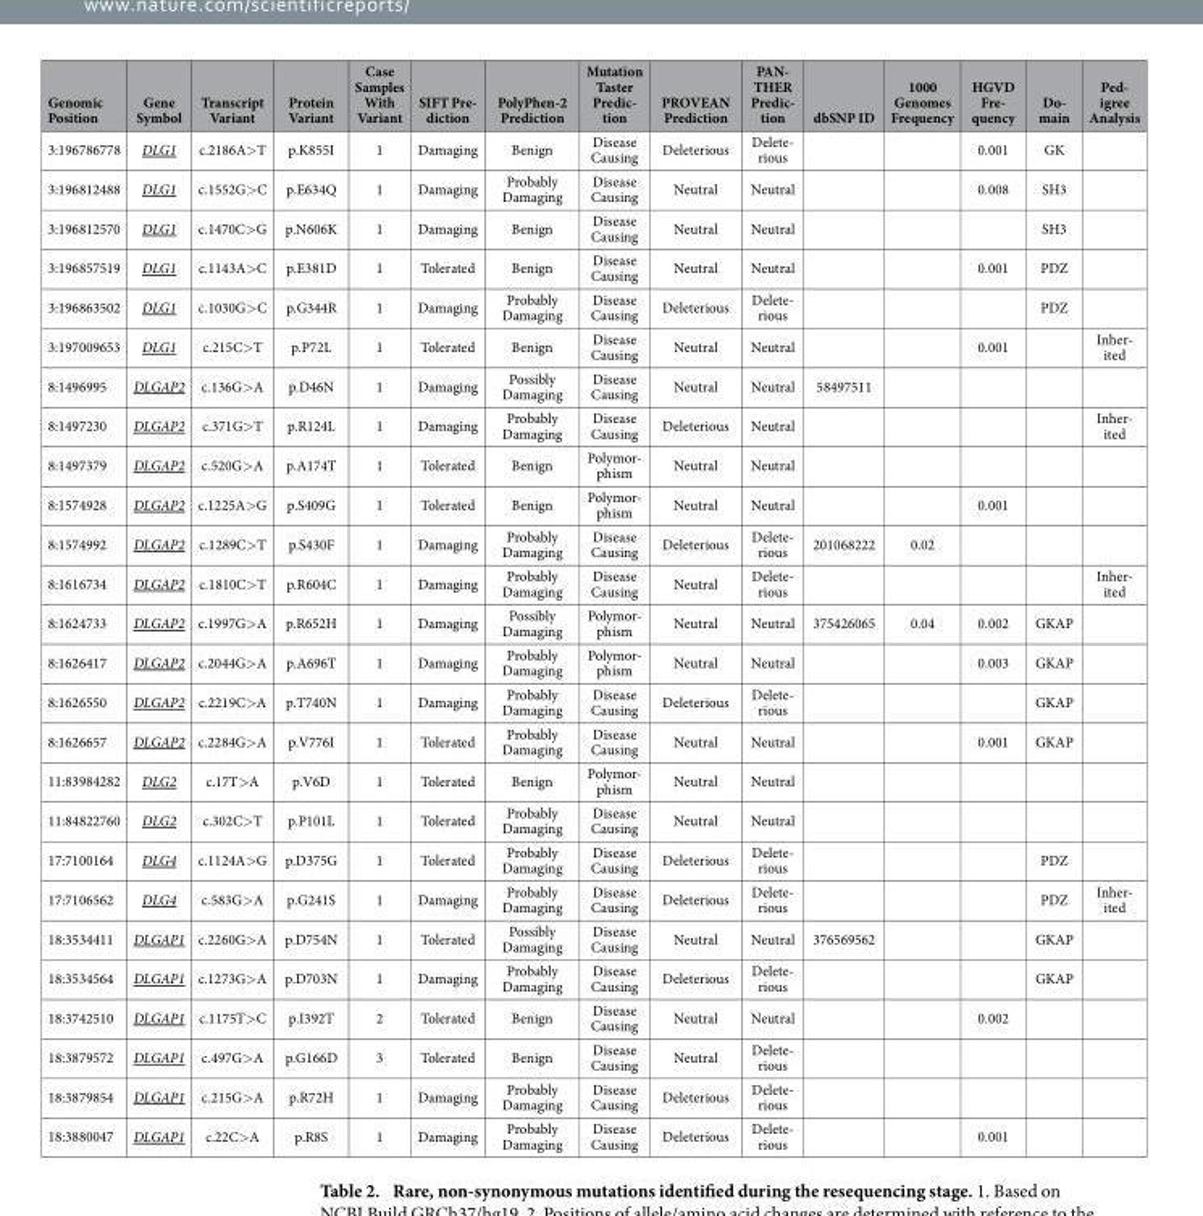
<table><thead><tr><td>Genomic Position</td><td>Gene Symbol</td><td>Transcript Variant</td><td>Protein Variant</td><td>Case Samples With Variant</td><td>SIFT Pre- diction</td><td>PolyPhen-2 Prediction</td><td>Mutation Taster Predic- tion</td><td>PROVEAN Prediction</td><td>PAN- THER Predic- tion</td><td>dbSNP ID</td><td>1000 Genomes Frequency</td><td>HGVD Fre- quency</td><td>Do- main</td><td>Ped- igree Analysis</td></tr></thead><tbody><tr><td>3:196786778</td><td>DLG1</td><td>c.2186A&gt; T</td><td>p.K855I</td><td>1</td><td>Damaging</td><td>Benign</td><td>Disease Causing</td><td>Deleterious</td><td>Delete- rious</td><td></td><td></td><td>0.001</td><td>GK</td><td></td></tr><tr><td>3:196812488</td><td>DLG1</td><td>c.1552G&gt; C</td><td>p.E634Q</td><td>1</td><td>Damaging</td><td>Probably Damaging</td><td>Disease Causing</td><td>Neutral</td><td>Neutral</td><td></td><td></td><td>0.008</td><td>SH3</td><td></td></tr><tr><td>3:196812570</td><td>DLG1</td><td>c.1470C&gt; G</td><td>p.N606K</td><td>1</td><td>Damaging</td><td>Benign</td><td>Disease Causing</td><td>Neutral</td><td>Neutral</td><td></td><td></td><td></td><td>SH3</td><td></td></tr><tr><td>3:196857519</td><td>DLG1</td><td>c.1143A&gt; C</td><td>p.E381D</td><td>1</td><td>Tolerated</td><td>Benign</td><td>Disease Causing</td><td>Neutral</td><td>Neutral</td><td></td><td></td><td>0.001</td><td>PDZ</td><td></td></tr><tr><td>3:196863502</td><td>DLG1</td><td>c.1030G&gt; C</td><td>p.G344R</td><td>1</td><td>Damaging</td><td>Probably Damaging</td><td>Disease Causing</td><td>Deleterious</td><td>Delete- rious</td><td></td><td></td><td></td><td>PDZ</td><td></td></tr><tr><td>3:197009653</td><td>DLG1</td><td>c.215C&gt; T</td><td>p.P72L</td><td>1</td><td>Tolerated</td><td>Benign</td><td>Disease Causing</td><td>Neutral</td><td>Neutral</td><td></td><td></td><td>0.001</td><td></td><td>Inher- ited</td></tr><tr><td>8:1496995</td><td>DLGAP2</td><td>c.136G&gt; A</td><td>p.D46N</td><td>1</td><td>Damaging</td><td>Possibly Damaging</td><td>Disease Causing</td><td>Neutral</td><td>Neutral</td><td>58497511</td><td></td><td></td><td></td><td></td></tr><tr><td>8:1497230</td><td>DLGAP2</td><td>c.371G&gt; T</td><td>p.R124L</td><td>1</td><td>Damaging</td><td>Probably Damaging</td><td>Disease Causing</td><td>Deleterious</td><td>Neutral</td><td></td><td></td><td></td><td></td><td>Inher- ited</td></tr><tr><td>8:1497379</td><td>DLGAP2</td><td>c.520G&gt; A</td><td>p.A174T</td><td>1</td><td>Tolerated</td><td>Benign</td><td>Polymor- phism</td><td>Neutral</td><td>Neutral</td><td></td><td></td><td></td><td></td><td></td></tr><tr><td>8:1574928</td><td>DLGAP2</td><td>c.1225A&gt; G</td><td>p.S409G</td><td>1</td><td>Tolerated</td><td>Benign</td><td>Polymor- phism</td><td>Neutral</td><td>Neutral</td><td></td><td></td><td>0.001</td><td></td><td></td></tr><tr><td>8:1574992</td><td>DLGAP2</td><td>c.1289C&gt; T</td><td>p.S430F</td><td>1</td><td>Damaging</td><td>Probably Damaging</td><td>Disease Causing</td><td>Deleterious</td><td>Delete- rious</td><td>201068222</td><td>0.02</td><td></td><td></td><td></td></tr><tr><td>8:1616734</td><td>DLGAP2</td><td>c.1810C&gt; T</td><td>p.R604C</td><td>1</td><td>Damaging</td><td>Probably Damaging</td><td>Disease Causing</td><td>Neutral</td><td>Delete- rious</td><td></td><td></td><td></td><td></td><td>Inher- ited</td></tr><tr><td>8:1624733</td><td>DLGAP2</td><td>c.1997G&gt; A</td><td>p.R652H</td><td>1</td><td>Damaging</td><td>Possibly Damaging</td><td>Polymor- phism</td><td>Neutral</td><td>Neutral</td><td>375426065</td><td>0.04</td><td>0.002</td><td>GKAP</td><td></td></tr><tr><td>8:1626417</td><td>DLGAP2</td><td>c.2044G&gt; A</td><td>p.A696T</td><td>1</td><td>Damaging</td><td>Probably Damaging</td><td>Polymor- phism</td><td>Neutral</td><td>Neutral</td><td></td><td></td><td>0.003</td><td>GKAP</td><td></td></tr><tr><td>8:1626550</td><td>DLGAP2</td><td>c.2219C&gt; A</td><td>p.T740N</td><td>1</td><td>Damaging</td><td>Probably Damaging</td><td>Disease Causing</td><td>Deleterious</td><td>Delete- rious</td><td></td><td></td><td></td><td>GKAP</td><td></td></tr><tr><td>8:1626657</td><td>DLGAP2</td><td>c.2284G&gt; A</td><td>p.V776I</td><td>1</td><td>Tolerated</td><td>Probably Damaging</td><td>Disease Causing</td><td>Neutral</td><td>Neutral</td><td></td><td></td><td>0.001</td><td>GKAP</td><td></td></tr><tr><td>11:83984282</td><td>DLG2</td><td>c.17T&gt; A</td><td>p.V6D</td><td>1</td><td>Tolerated</td><td>Benign</td><td>Polymor- phism</td><td>Neutral</td><td>Neutral</td><td></td><td></td><td></td><td></td><td></td></tr><tr><td>11:84822760</td><td>DLG2</td><td>c.302C&gt; T</td><td>p.P101L</td><td>1</td><td>Tolerated</td><td>Probably Damaging</td><td>Disease Causing</td><td>Neutral</td><td>Neutral</td><td></td><td></td><td></td><td></td><td></td></tr><tr><td>17:7100164</td><td>DLG4</td><td>c.1124A&gt; G</td><td>p.D375G</td><td>1</td><td>Tolerated</td><td>Probably Damaging</td><td>Disease Causing</td><td>Deleterious</td><td>Delete- rious</td><td></td><td></td><td></td><td>PDZ</td><td></td></tr><tr><td>17:7106562</td><td>DLG4</td><td>c.583G&gt; A</td><td>p.G241S</td><td>1</td><td>Damaging</td><td>Probably Damaging</td><td>Disease Causing</td><td>Deleterious</td><td>Delete- rious</td><td></td><td></td><td></td><td>PDZ</td><td>Inher- ited</td></tr><tr><td>18:3534411</td><td>DLGAP1</td><td>c.2260G&gt; A</td><td>p.D754N</td><td>1</td><td>Tolerated</td><td>Possibly Damaging</td><td>Disease Causing</td><td>Neutral</td><td>Neutral</td><td>376569562</td><td></td><td></td><td>GKAP</td><td></td></tr><tr><td>18:3534564</td><td>DLGAP1</td><td>c.1273G&gt; A</td><td>p.D703N</td><td>1</td><td>Damaging</td><td>Probably Damaging</td><td>Disease Causing</td><td>Deleterious</td><td>Delete- rious</td><td></td><td></td><td></td><td>GKAP</td><td></td></tr><tr><td>18:3742510</td><td>DLGAP1</td><td>c.1175T&gt; C</td><td>p.I392T</td><td>2</td><td>Tolerated</td><td>Benign</td><td>Disease Causing</td><td>Neutral</td><td>Neutral</td><td></td><td></td><td>0.002</td><td></td><td></td></tr><tr><td>18:3879572</td><td>DLGAP1</td><td>c.497G&gt; A</td><td>p.G166D</td><td>3</td><td>Tolerated</td><td>Benign</td><td>Disease Causing</td><td>Neutral</td><td>Delete- rious</td><td></td><td></td><td></td><td></td><td></td></tr><tr><td>18:3879854</td><td>DLGAP1</td><td>c.215G&gt; A</td><td>p.R72H</td><td>1</td><td>Damaging</td><td>Probably Damaging</td><td>Disease Causing</td><td>Deleterious</td><td>Delete- rious</td><td></td><td></td><td></td><td></td><td></td></tr><tr><td>18:3880047</td><td>DLGAP1</td><td>c.22C&gt; A</td><td>p.R8S</td><td>1</td><td>Damaging</td><td>Probably Damaging</td><td>Disease Causing</td><td>Deleterious</td><td>Delete- rious</td><td></td><td></td><td>0.001</td><td></td><td></td></tr></tbody></table>